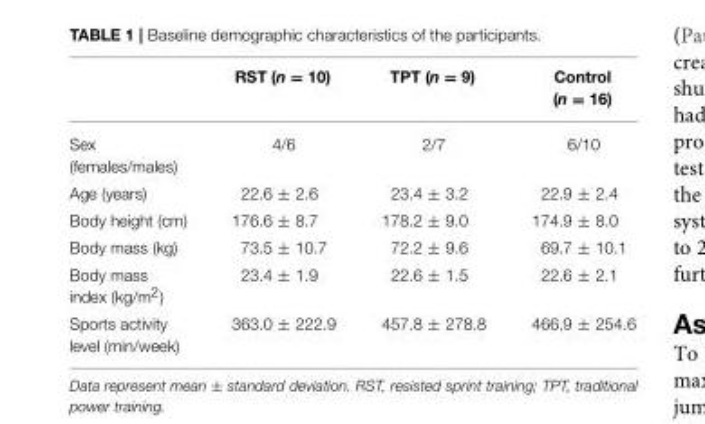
<table><thead><tr><td></td><td>RST (n = 10)</td><td>TPT (n = 9)</td><td>Control (n = 16)</td></tr></thead><tbody><tr><td>Sex (females/males)</td><td>4/6</td><td>2/7</td><td>6/10</td></tr><tr><td>Age (years)</td><td>22.6 ± 2.6</td><td>23.4 ± 3.2</td><td>22.9 ± 2.4</td></tr><tr><td>Body height (cm)</td><td>176.6 ± 8.7</td><td>178.2 ± 9.0</td><td>174.9 ± 8.0</td></tr><tr><td>Body mass (kg)</td><td>73.5 ± 10.7</td><td>72.2 ± 9.6</td><td>69.7 ± 10.1</td></tr><tr><td>Body mass index (kg/m<sup>2</sup>)</td><td>23.4 ± 1.9</td><td>22.6 ± 1.5</td><td>22.6 ± 2.1</td></tr><tr><td>Sports activity level (min/week)</td><td>363.0 ± 222.9</td><td>457.8 ± 278.8</td><td>466.9 ± 254.6</td></tr></tbody></table>